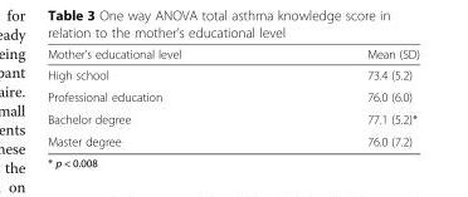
<table><thead><tr><td>Mother’s educational level</td><td>Mean (SD)</td></tr></thead><tbody><tr><td>High school</td><td>73.4 (5.2)</td></tr><tr><td>Professional education</td><td>76.0 (6.0)</td></tr><tr><td>Bachelor degree</td><td>77.1 (5.2)*</td></tr><tr><td>Master degree</td><td>76.0 (7.2)</td></tr></tbody></table>